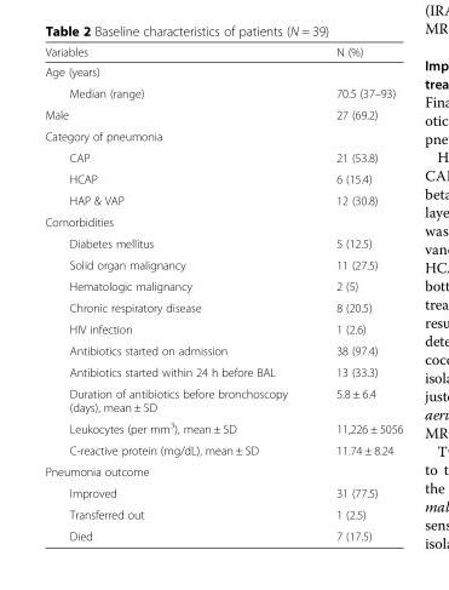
<table><thead><tr><td>Variables</td><td>N (%)</td></tr></thead><tbody><tr><td colspan="2">Age (years)</td></tr><tr><td>Median (range)</td><td>70.5 (37–93)</td></tr><tr><td>Male</td><td>27 (69.2)</td></tr><tr><td colspan="2">Category of pneumonia</td></tr><tr><td>CAP</td><td>21 (53.8)</td></tr><tr><td>HCAP</td><td>6 (15.4)</td></tr><tr><td>HAP &amp; VAP</td><td>12 (30.8)</td></tr><tr><td colspan="2">Comorbidities</td></tr><tr><td>Diabetes mellitus</td><td>5 (12.5)</td></tr><tr><td>Solid organ malignancy</td><td>11 (27.5)</td></tr><tr><td>Hematologic malignancy</td><td>2 (5)</td></tr><tr><td>Chronic respiratory disease</td><td>8 (20.5)</td></tr><tr><td>HIV infection</td><td>1 (2.6)</td></tr><tr><td>Antibiotics started on admission</td><td>38 (97.4)</td></tr><tr><td>Antibiotics started within 24 h before BAL</td><td>13 (33.3)</td></tr><tr><td>Duration of antibiotics before bronchoscopy (days), mean ± SD</td><td>5.8 ± 6.4</td></tr><tr><td>Leukocytes (per mm<sup>3</sup>), mean ± SD</td><td>11,226 ± 5056</td></tr><tr><td>C-reactive protein (mg/dL), mean ± SD</td><td>11.74 ± 8.24</td></tr><tr><td colspan="2">Pneumonia outcome</td></tr><tr><td>Improved</td><td>31 (77.5)</td></tr><tr><td>Transferred out</td><td>1 (2.5)</td></tr><tr><td>Died</td><td>7 (17.5)</td></tr></tbody></table>